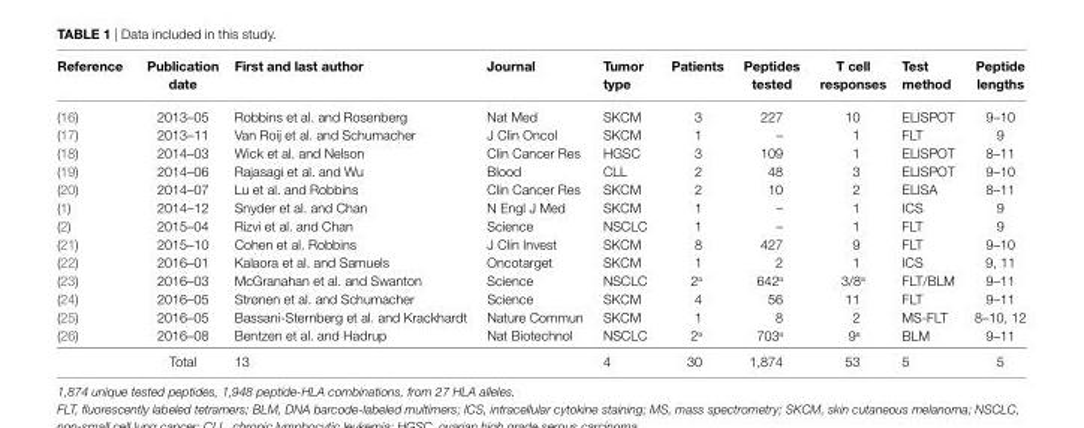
<table><thead><tr><td>reference</td><td>Publication date</td><td>First and last author</td><td>Journal</td><td>Tumor type</td><td>Patients</td><td>Peptides tested</td><td>T cell responses</td><td>Test method</td><td>Peptide lengths</td></tr></thead><tbody><tr><td>(16)</td><td>2013–05</td><td>Robbins et al. and Rosenberg</td><td>Nat Med</td><td>SKCM</td><td>3</td><td>227</td><td>10</td><td>ELISPOT</td><td>9–10</td></tr><tr><td>(17)</td><td>2013–11</td><td>Van Roij et al. and Schumacher</td><td>J Clin Oncol</td><td>SKCM</td><td>1</td><td>–</td><td>1</td><td>FLT</td><td>9</td></tr><tr><td>(18)</td><td>2014–03</td><td>Wick et al. and Nelson</td><td>Clin Cancer Res</td><td>HGSC</td><td>3</td><td>109</td><td>1</td><td>ELISPOT</td><td>8–11</td></tr><tr><td>(19)</td><td>2014–06</td><td>Rajasagi et al. and Wu</td><td>Blood</td><td>CLL</td><td>2</td><td>48</td><td>3</td><td>ELISPOT</td><td>9–10</td></tr><tr><td>(20)</td><td>2014–07</td><td>Lu et al. and Robbins</td><td>Clin Cancer Res</td><td>SKCM</td><td>2</td><td>10</td><td>2</td><td>ELISA</td><td>8–11</td></tr><tr><td>(1)</td><td>2014–12</td><td>Snyder et al. and Chan</td><td>N Engl J Med</td><td>SKCM</td><td>1</td><td>–</td><td>1</td><td>ICS</td><td>9</td></tr><tr><td>(2)</td><td>2015–04</td><td>Rizvi et al. and Chan</td><td>Science</td><td>NSCLC</td><td>1</td><td>–</td><td>1</td><td>FLT</td><td>9</td></tr><tr><td>(21)</td><td>2015–10</td><td>Cohen et al. Robbins</td><td>J Clin Invest</td><td>SKCM</td><td>8</td><td>427</td><td>9</td><td>FLT</td><td>9–10</td></tr><tr><td>(22)</td><td>2016–01</td><td>Kalaora et al. and Samuels</td><td>Oncotarget</td><td>SKCM</td><td>1</td><td>2</td><td>1</td><td>ICS</td><td>9, 11</td></tr><tr><td>(23)</td><td>2016–03</td><td>McGranahan et al. and Swanton</td><td>Science</td><td>NSCLC</td><td>2<sup>a</sup></td><td>642<sup>a</sup></td><td>3/8<sup>a</sup></td><td>FLT/BLM</td><td>9–11</td></tr><tr><td>(24)</td><td>2016–05</td><td>Strønen et al. and Schumacher</td><td>Science</td><td>SKCM</td><td>4</td><td>56</td><td>11</td><td>FLT</td><td>9–11</td></tr><tr><td>(25)</td><td>2016–05</td><td>Bassani-Sternberg et al. and Krackhardt</td><td>Nature Commun</td><td>SKCM</td><td>1</td><td>8</td><td>2</td><td>MS-FLT</td><td>8–10, 12</td></tr><tr><td rowspan="2">(26)</td><td>2016–08</td><td>Bentzen et al. and Hadrup</td><td>Nat Biotechnol</td><td>NSCLC</td><td>2<sup>a</sup></td><td>703<sup>a</sup></td><td>9<sup>a</sup></td><td>BLM</td><td>9–11</td></tr><tr><td>Total</td><td>13</td><td></td><td>4</td><td>30</td><td>1,874</td><td>53</td><td>5</td><td>5</td></tr></tbody></table>